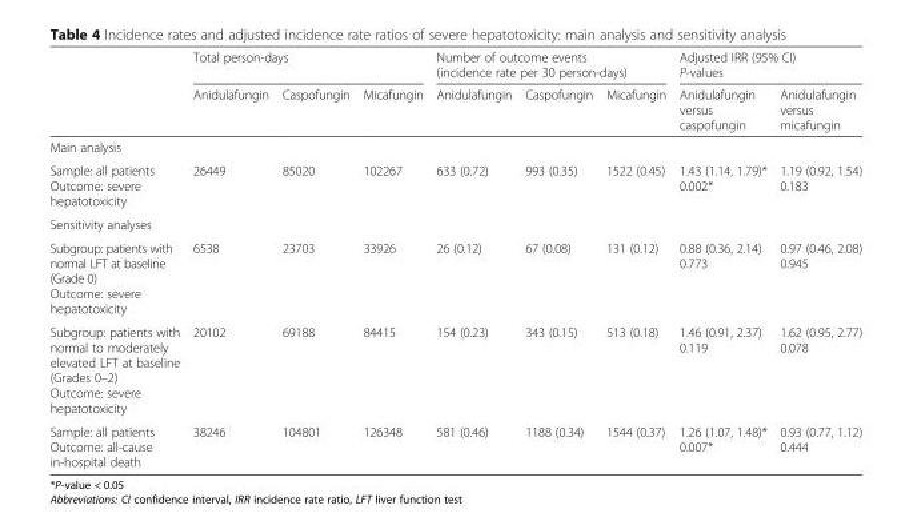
<table><thead><tr><td rowspan="2"></td><td colspan="3">Total person-days</td><td colspan="3">Number of outcome events (incidence rate per 30 person-days)</td><td colspan="2">Adjusted IRR (95% CI) P-values</td></tr><tr><td>Anidulafungin</td><td>Caspofungin</td><td>Micafungin</td><td>Anidulafungin</td><td>Caspofungin</td><td>Micafungin</td><td>Anidulafungin versus caspofungin</td><td>Anidulafungin versus micafungin</td></tr></thead><tbody><tr><td colspan="9">Main analysis</td></tr><tr><td>Sample: all patients Outcome: severe hepatotoxicity</td><td>26449</td><td>85020</td><td>102267</td><td>633 (0.72)</td><td>993 (0.35)</td><td>1522 (0.45)</td><td>1.43 (1.14, 1.79)* 0.002*</td><td>1.19 (0.92, 1.54) 0.183</td></tr><tr><td colspan="9">Sensitivity analyses</td></tr><tr><td>Subgroup: patients with normal LFT at baseline (Grade 0) Outcome: severe hepatotoxicity</td><td>6538</td><td>23703</td><td>33926</td><td>26 (0.12)</td><td>67 (0.08)</td><td>131 (0.12)</td><td>0.88 (0.36, 2.14) 0.773</td><td>0.97 (0.46, 2.08) 0.945</td></tr><tr><td>Subgroup: patients with normal to moderately elevated LFT at baseline (Grades 0–2) Outcome: severe hepatotoxicity</td><td>20102</td><td>69188</td><td>84415</td><td>154 (0.23)</td><td>343 (0.15)</td><td>513 (0.18)</td><td>1.46 (0.91, 2.37) 0.119</td><td>1.62 (0.95, 2.77) 0.078</td></tr><tr><td>Sample: all patients Outcome: all-cause in-hospital death</td><td>38246</td><td>104801</td><td>126348</td><td>581 (0.46)</td><td>1188 (0.34)</td><td>1544 (0.37)</td><td>1.26 (1.07, 1.48)* 0.007*</td><td>0.93 (0.77, 1.12) 0.444</td></tr></tbody></table>